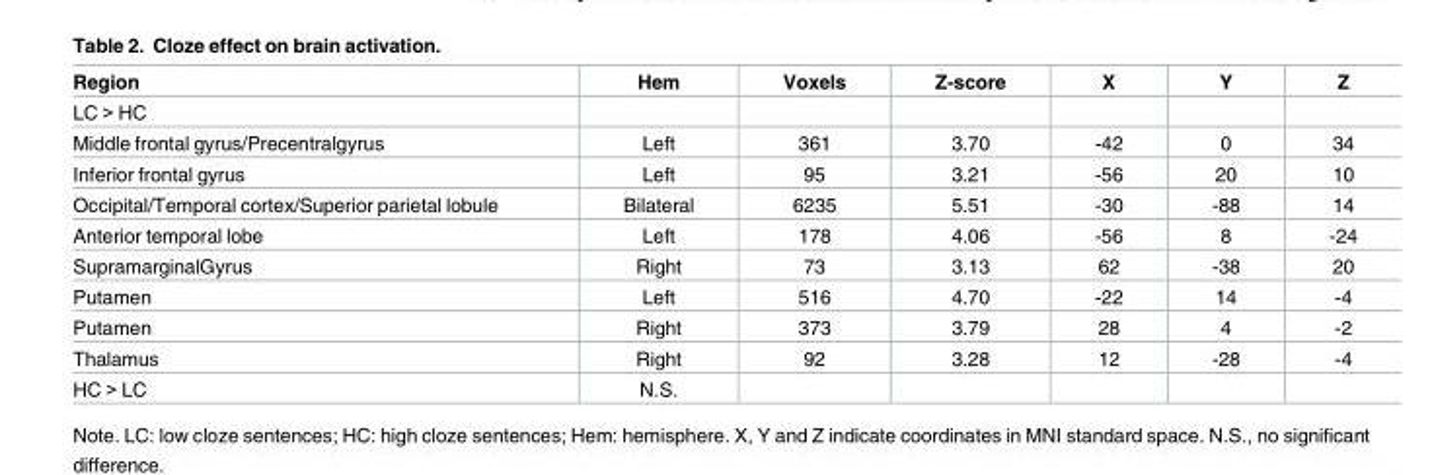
<table><thead><tr><td>Region</td><td>Hem</td><td>Voxels</td><td>Z-score</td><td>X</td><td>Y</td><td>Z</td></tr></thead><tbody><tr><td colspan="7">LC &gt; HC</td></tr><tr><td>Middle frontal gyrus/Precentralgyrus</td><td>Left</td><td>361</td><td>3.70</td><td>-42</td><td>0</td><td>34</td></tr><tr><td>Inferior frontal gyrus</td><td>Left</td><td>95</td><td>3.21</td><td>-56</td><td>20</td><td>10</td></tr><tr><td>Occipital/Temporal cortex/Superior parietal lobule</td><td>Bilateral</td><td>6235</td><td>5.51</td><td>-30</td><td>-88</td><td>14</td></tr><tr><td>Anterior temporal lobe</td><td>Left</td><td>178</td><td>4.06</td><td>-56</td><td>8</td><td>-24</td></tr><tr><td>SupramarginalGyrus</td><td>Right</td><td>73</td><td>3.13</td><td>62</td><td>-38</td><td>20</td></tr><tr><td>Putamen</td><td>Left</td><td>516</td><td>4.70</td><td>-22</td><td>14</td><td>-4</td></tr><tr><td>Putamen</td><td>Right</td><td>373</td><td>3.79</td><td>28</td><td>4</td><td>-2</td></tr><tr><td>Thalamus</td><td>Right</td><td>92</td><td>3.28</td><td>12</td><td>-28</td><td>-4</td></tr><tr><td>HC &gt; LC</td><td>N.S.</td><td></td><td></td><td></td><td></td><td></td></tr></tbody></table>